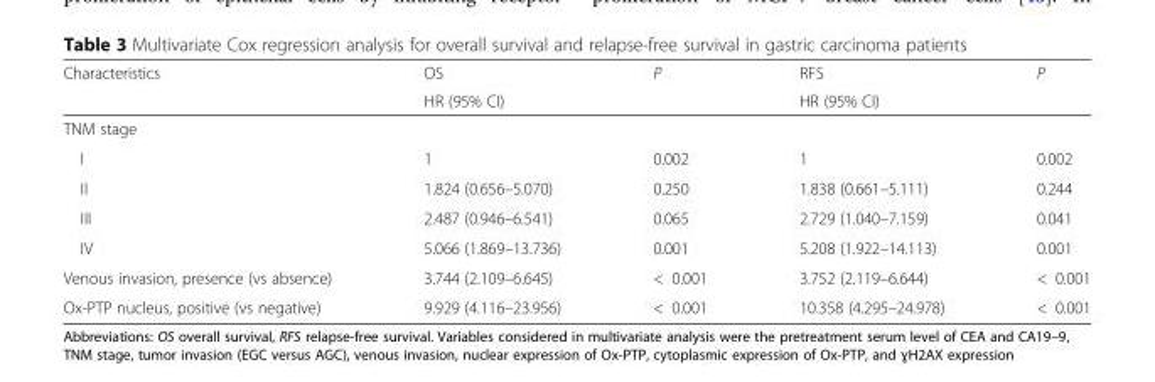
<table><thead><tr><td rowspan="2">Characteristics</td><td rowspan="2">OS HR (95% CI)</td><td rowspan="2">P</td><td rowspan="2">RFS HR (95% CI)</td><td rowspan="2">P</td></tr><tr></tr></thead><tbody><tr><td colspan="5">TNM stage</td></tr><tr><td>I</td><td>1</td><td>0.002</td><td>1</td><td>0.002</td></tr><tr><td>II</td><td>1.824 (0.656–5.070)</td><td>0.250</td><td>1.838 (0.661–5.111)</td><td>0.244</td></tr><tr><td>III</td><td>2.487 (0.946–6.541)</td><td>0.065</td><td>2.729 (1.040–7.159)</td><td>0.041</td></tr><tr><td>IV</td><td>5.066 (1.869–13.736)</td><td>0.001</td><td>5.208 (1.922–14.113)</td><td>0.001</td></tr><tr><td>Venous invasion, presence (vs absence)</td><td>3.744 (2.109–6.645)</td><td>&lt; 0.001</td><td>3.752 (2.119–6.644)</td><td>&lt; 0.001</td></tr><tr><td>Ox-PTP nucleus, positive (vs negative)</td><td>9.929 (4.116–23.956)</td><td>&lt; 0.001</td><td>10.358 (4.295–24.978)</td><td>&lt; 0.001</td></tr></tbody></table>